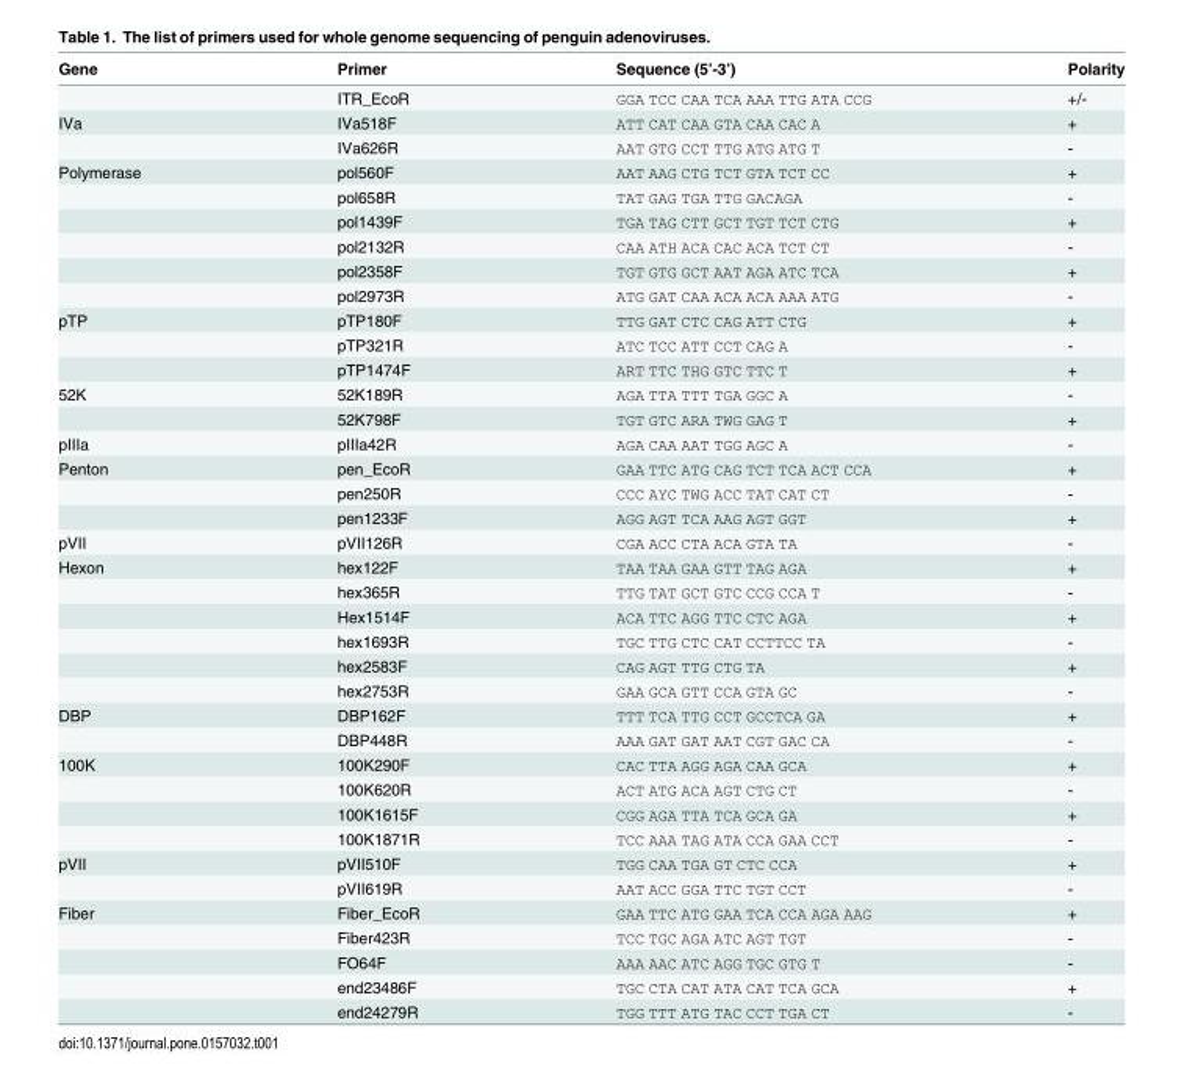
<table><thead><tr><td>Gene</td><td>Primer</td><td>Sequence (5’-3’)</td><td>Polarity</td></tr></thead><tbody><tr><td></td><td>ITR_EcoR</td><td>GGA TCC CAA TCA AAA TTG ATA CCG</td><td>+/-</td></tr><tr><td rowspan="2">IVa</td><td>IVa518F</td><td>ATT CAT CAA GTA CAA CAC A</td><td>+</td></tr><tr><td>IVa626R</td><td>AAT GTG CCT TTG ATG ATG T</td><td>-</td></tr><tr><td rowspan="6">Polymerase</td><td>pol560F</td><td>AAT AAG CTG TCT GTA TCT CC</td><td>+</td></tr><tr><td>pol658R</td><td>TAT GAG TGA TTG GACAGA</td><td>-</td></tr><tr><td>pol1439F</td><td>TGA TAG CTT GCT TGT TCT CTG</td><td>+</td></tr><tr><td>pol2132R</td><td>CAA ATH ACA CAC ACA TCT CT</td><td>-</td></tr><tr><td>pol2358F</td><td>TGT GTG GCT AAT AGA ATC TCA</td><td>+</td></tr><tr><td>pol2973R</td><td>ATG GAT CAA ACA ACA AAA ATG</td><td>-</td></tr><tr><td rowspan="3">pTP</td><td>pTP180F</td><td>TTG GAT CTC CAG ATT CTG</td><td>+</td></tr><tr><td>pTP321R</td><td>ATC TCC ATT CCT CAG A</td><td>-</td></tr><tr><td>pTP1474F</td><td>ART TTC THG GTC TTC T</td><td>+</td></tr><tr><td rowspan="2">52K</td><td>52K189R</td><td>AGA TTA TTT TGA GGC A</td><td>-</td></tr><tr><td>52K798F</td><td>TGT GTC ARA TWG GAG T</td><td>+</td></tr><tr><td>pIIIa</td><td>pIIIa42R</td><td>AGA CAA AAT TGG AGC A</td><td>-</td></tr><tr><td rowspan="3">Penton</td><td>pen_EcoR</td><td>GAA TTC ATG CAG TCT TCA ACT CCA</td><td>+</td></tr><tr><td>pen250R</td><td>CCC AYC TWG ACC TAT CAT CT</td><td>-</td></tr><tr><td>pen1233F</td><td>AGG AGT TCA AAG AGT GGT</td><td>+</td></tr><tr><td>pVII</td><td>pVII126R</td><td>CGA ACC CTA ACA GTA TA</td><td>-</td></tr><tr><td rowspan="6">Hexon</td><td>hex122F</td><td>TAA TAA GAA GTT TAG AGA</td><td>+</td></tr><tr><td>hex365R</td><td>TTG TAT GCT GTC CCG CCA T</td><td>-</td></tr><tr><td>Hex1514F</td><td>ACA TTC AGG TTC CTC AGA</td><td>+</td></tr><tr><td>hex1693R</td><td>TGC TTG CTC CAT CCTTCC TA</td><td>-</td></tr><tr><td>hex2583F</td><td>CAG AGT TTG CTG TA</td><td>+</td></tr><tr><td>hex2753R</td><td>GAA GCA GTT CCA GTA GC</td><td>-</td></tr><tr><td rowspan="2">DBP</td><td>DBP162F</td><td>TTT TCA TTG CCT GCCTCA GA</td><td>+</td></tr><tr><td>DBP448R</td><td>AAA GAT GAT AAT CGT GAC CA</td><td>-</td></tr><tr><td rowspan="4">100K</td><td>100K290F</td><td>CAC TTA AGG AGA CAA GCA</td><td>+</td></tr><tr><td>100K620R</td><td>ACT ATG ACA AGT CTG CT</td><td>-</td></tr><tr><td>100K1615F</td><td>CGG AGA TTA TCA GCA GA</td><td>+</td></tr><tr><td>100K1871R</td><td>TCC AAA TAG ATA CCA GAA CCT</td><td>-</td></tr><tr><td rowspan="2">pVII</td><td>pVII510F</td><td>TGG CAA TGA GT CTC CCA</td><td>+</td></tr><tr><td>pVII619R</td><td>AAT ACC GGA TTC TGT CCT</td><td>-</td></tr><tr><td rowspan="5">Fiber</td><td>Fiber_EcoR</td><td>GAA TTC ATG GAA TCA CCA AGA AAG</td><td>+</td></tr><tr><td>Fiber423R</td><td>TCC TGC AGA ATC AGT TGT</td><td>-</td></tr><tr><td>FO64F</td><td>AAA AAC ATC AGG TGC GTG T</td><td>-</td></tr><tr><td>end23486F</td><td>TGC CTA CAT ATA CAT TCA GCA</td><td>+</td></tr><tr><td>end24279R</td><td>TGG TTT ATG TAC CCT TGA CT</td><td>-</td></tr></tbody></table>